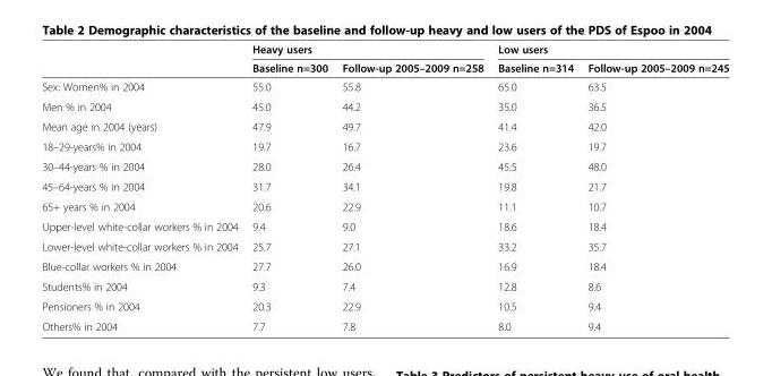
<table><thead><tr><td rowspan="2"></td><td colspan="2">Heavy users</td><td colspan="2">Low users</td></tr><tr><td>Baseline n=300</td><td>Follow-up 2005–2009 n=258</td><td>Baseline n=314</td><td>Follow-up 2005–2009 n=245</td></tr></thead><tbody><tr><td>Sex: Women% in 2004</td><td>55.0</td><td>55.8</td><td>65.0</td><td>63.5</td></tr><tr><td>Men % in 2004</td><td>45.0</td><td>44.2</td><td>35.0</td><td>36.5</td></tr><tr><td>Mean age in 2004 (years)</td><td>47.9</td><td>49.7</td><td>41.4</td><td>42.0</td></tr><tr><td>18–29-years% in 2004</td><td>19.7</td><td>16.7</td><td>23.6</td><td>19.7</td></tr><tr><td>30–44-years % in 2004</td><td>28.0</td><td>26.4</td><td>45.5</td><td>48.0</td></tr><tr><td>45–64-years % in 2004</td><td>31.7</td><td>34.1</td><td>19.8</td><td>21.7</td></tr><tr><td>65+ years % in 2004</td><td>20.6</td><td>22.9</td><td>11.1</td><td>10.7</td></tr><tr><td>Upper-level white-collar workers % in 2004</td><td>9.4</td><td>9.0</td><td>18.6</td><td>18.4</td></tr><tr><td>Lower-level white-collar workers % in 2004</td><td>25.7</td><td>27.1</td><td>33.2</td><td>35.7</td></tr><tr><td>Blue-collar workers % in 2004</td><td>27.7</td><td>26.0</td><td>16.9</td><td>18.4</td></tr><tr><td>Students% in 2004</td><td>9.3</td><td>7.4</td><td>12.8</td><td>8.6</td></tr><tr><td>Pensioners % in 2004</td><td>20.3</td><td>22.9</td><td>10.5</td><td>9.4</td></tr><tr><td>Others% in 2004</td><td>7.7</td><td>7.8</td><td>8.0</td><td>9.4</td></tr></tbody></table>